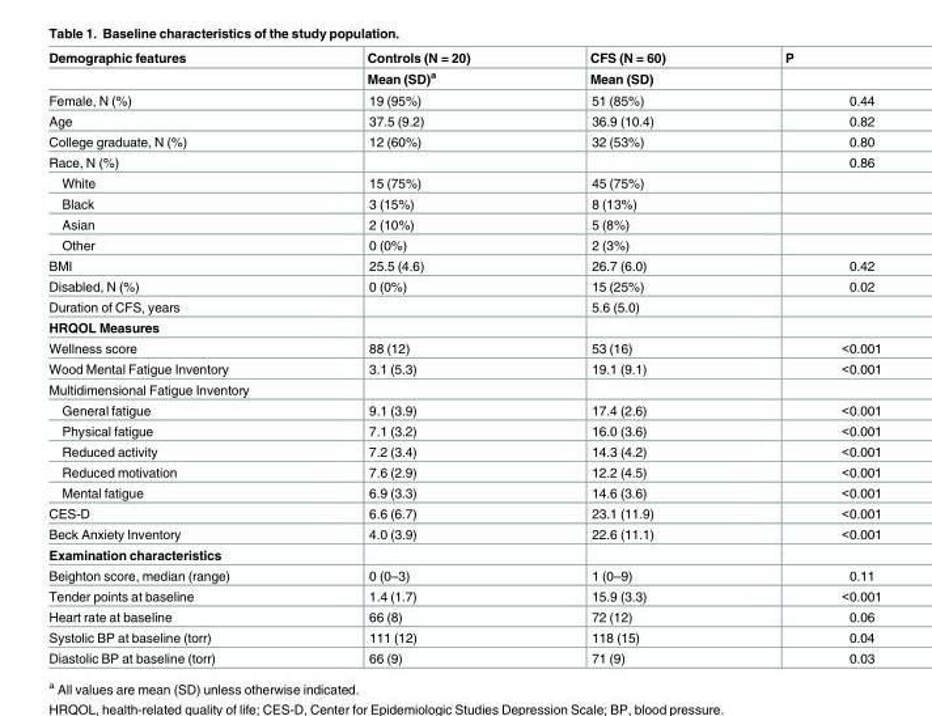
<table><thead><tr><td rowspan="2">Demographic features</td><td rowspan="2">Controls (N = 20) Mean (SD)<sup>a</sup></td><td rowspan="2">CFS (N = 60) Mean (SD)</td><td rowspan="2">P</td></tr><tr></tr></thead><tbody><tr><td>Female, N (%)</td><td>19 (95%)</td><td>51 (85%)</td><td>0.44</td></tr><tr><td>Age</td><td>37.5 (9.2)</td><td>36.9 (10.4)</td><td>0.82</td></tr><tr><td>College graduate, N (%)</td><td>12 (60%)</td><td>32 (53%)</td><td>0.80</td></tr><tr><td>Race, N (%)</td><td></td><td></td><td>0.86</td></tr><tr><td>White</td><td>15 (75%)</td><td>45 (75%)</td><td></td></tr><tr><td>Black</td><td>3 (15%)</td><td>8 (13%)</td><td></td></tr><tr><td>Asian</td><td>2 (10%)</td><td>5 (8%)</td><td></td></tr><tr><td>Other</td><td>0 (0%)</td><td>2 (3%)</td><td></td></tr><tr><td>BMI</td><td>25.5 (4.6)</td><td>26.7 (6.0)</td><td>0.42</td></tr><tr><td>Disabled, N (%)</td><td>0 (0%)</td><td>15 (25%)</td><td>0.02</td></tr><tr><td>Duration of CFS, years</td><td></td><td>5.6 (5.0)</td><td></td></tr><tr><td colspan="4">HRQOL Measures</td></tr><tr><td>Wellness score</td><td>88 (12)</td><td>53 (16)</td><td>&lt;0.001</td></tr><tr><td>Wood Mental Fatigue Inventory</td><td>3.1 (5.3)</td><td>19.1 (9.1)</td><td>&lt;0.001</td></tr><tr><td colspan="4">Multidimensional Fatigue Inventory</td></tr><tr><td>General fatigue</td><td>9.1 (3.9)</td><td>17.4 (2.6)</td><td>&lt;0.001</td></tr><tr><td>Physical fatigue</td><td>7.1 (3.2)</td><td>16.0 (3.6)</td><td>&lt;0.001</td></tr><tr><td>Reduced activity</td><td>7.2 (3.4)</td><td>14.3 (4.2)</td><td>&lt;0.001</td></tr><tr><td>Reduced motivation</td><td>7.6 (2.9)</td><td>12.2 (4.5)</td><td>&lt;0.001</td></tr><tr><td>Mental fatigue</td><td>6.9 (3.3)</td><td>14.6 (3.6)</td><td>&lt;0.001</td></tr><tr><td>CES-D</td><td>6.6 (6.7)</td><td>23.1 (11.9)</td><td>&lt;0.001</td></tr><tr><td>Beck Anxiety Inventory</td><td>4.0 (3.9)</td><td>22.6 (11.1)</td><td>&lt;0.001</td></tr><tr><td colspan="4">Examination characteristics</td></tr><tr><td>Beighton score, median (range)</td><td>0 (0–3)</td><td>1 (0–9)</td><td>0.11</td></tr><tr><td>Tender points at baseline</td><td>1.4 (1.7)</td><td>15.9 (3.3)</td><td>&lt;0.001</td></tr><tr><td>Heart rate at baseline</td><td>66 (8)</td><td>72 (12)</td><td>0.06</td></tr><tr><td>Systolic BP at baseline (torr)</td><td>111 (12)</td><td>118 (15)</td><td>0.04</td></tr><tr><td>Diastolic BP at baseline (torr)</td><td>66 (9)</td><td>71 (9)</td><td>0.03</td></tr></tbody></table>